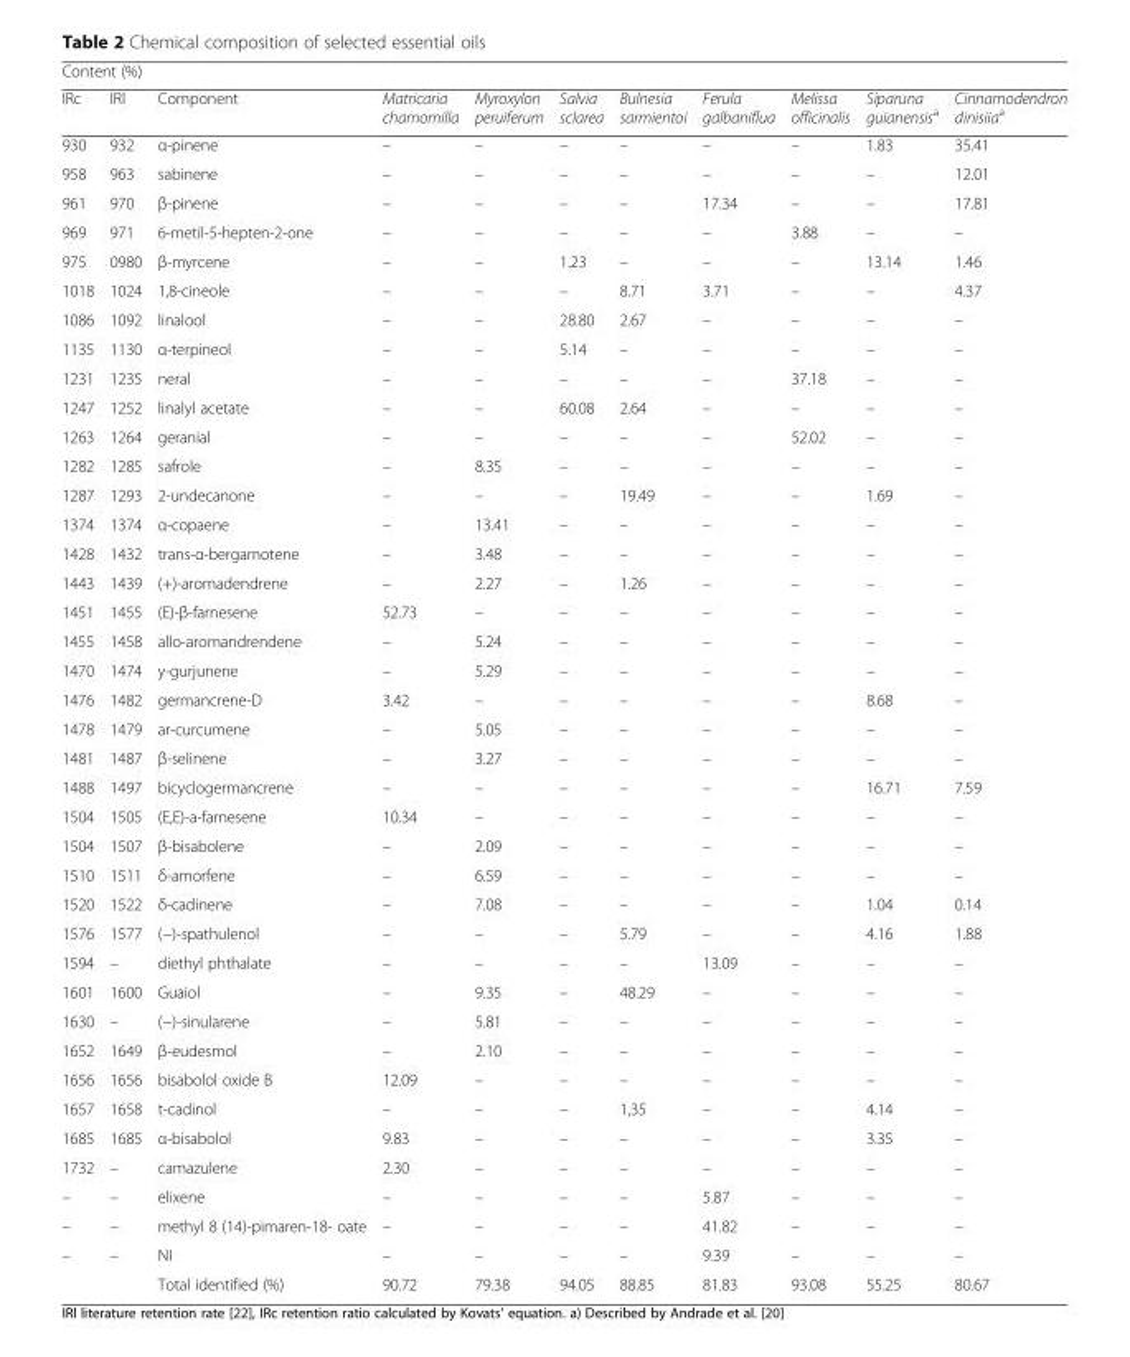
<table><thead><tr><td colspan="11">Content (%)</td></tr><tr><td>IRc</td><td>IRl</td><td>Component</td><td>Matricaria chamomilla</td><td>Myroxylon peruiferum</td><td>Salvia sclarea</td><td>Bulnesia sarmientoi</td><td>Ferula galbaniflua</td><td>Melissa officinalis</td><td>Siparuna guianensis<sup>a</sup></td><td>Cinnamodendron dinisiia<sup>a</sup></td></tr></thead><tbody><tr><td>930</td><td>932</td><td>α-pinene</td><td>–</td><td>–</td><td>–</td><td>–</td><td>–</td><td>–</td><td>1.83</td><td>35.41</td></tr><tr><td>958</td><td>963</td><td>sabinene</td><td>–</td><td>–</td><td>–</td><td>–</td><td>–</td><td>–</td><td>–</td><td>12.01</td></tr><tr><td>961</td><td>970</td><td>β-pinene</td><td>–</td><td>–</td><td>–</td><td>–</td><td>17.34</td><td>–</td><td>–</td><td>17.81</td></tr><tr><td>969</td><td>971</td><td>6-metil-5-hepten-2-one</td><td>–</td><td>–</td><td>–</td><td>–</td><td>–</td><td>3.88</td><td>–</td><td>–</td></tr><tr><td>975</td><td>0980</td><td>β-myrcene</td><td>–</td><td>–</td><td>1.23</td><td>–</td><td>–</td><td>–</td><td>13.14</td><td>1.46</td></tr><tr><td>1018</td><td>1024</td><td>1,8-cineole</td><td>–</td><td>–</td><td>–</td><td>8.71</td><td>3.71</td><td>–</td><td>–</td><td>4.37</td></tr><tr><td>1086</td><td>1092</td><td>linalool</td><td>–</td><td>–</td><td>28.80</td><td>2.67</td><td>–</td><td>–</td><td>–</td><td>–</td></tr><tr><td>1135</td><td>1130</td><td>α-terpineol</td><td>–</td><td>–</td><td>5.14</td><td>–</td><td>–</td><td>–</td><td>–</td><td>–</td></tr><tr><td>1231</td><td>1235</td><td>neral</td><td>–</td><td>–</td><td>–</td><td>–</td><td>–</td><td>37.18</td><td>–</td><td>–</td></tr><tr><td>1247</td><td>1252</td><td>linalyl acetate</td><td>–</td><td>–</td><td>60.08</td><td>2.64</td><td>–</td><td>–</td><td>–</td><td>–</td></tr><tr><td>1263</td><td>1264</td><td>geranial</td><td>–</td><td>–</td><td>–</td><td>–</td><td>–</td><td>52.02</td><td>–</td><td>–</td></tr><tr><td>1282</td><td>1285</td><td>safrole</td><td>–</td><td>8.35</td><td>–</td><td>–</td><td>–</td><td>–</td><td>–</td><td>–</td></tr><tr><td>1287</td><td>1293</td><td>2-undecanone</td><td>–</td><td>–</td><td>–</td><td>19.49</td><td>–</td><td>–</td><td>1.69</td><td>–</td></tr><tr><td>1374</td><td>1374</td><td>α-copaene</td><td>–</td><td>13.41</td><td>–</td><td>–</td><td>–</td><td>–</td><td>–</td><td>–</td></tr><tr><td>1428</td><td>1432</td><td>trans-α-bergamotene</td><td>–</td><td>3.48</td><td>–</td><td>–</td><td>–</td><td>–</td><td>–</td><td>–</td></tr><tr><td>1443</td><td>1439</td><td>(+)-aromadendrene</td><td>–</td><td>2.27</td><td>–</td><td>1.26</td><td>–</td><td>–</td><td>–</td><td>–</td></tr><tr><td>1451</td><td>1455</td><td>(E)-β-farnesene</td><td>52.73</td><td>–</td><td>–</td><td>–</td><td>–</td><td>–</td><td>–</td><td>–</td></tr><tr><td>1455</td><td>1458</td><td>allo-aromandrendene</td><td>–</td><td>5.24</td><td>–</td><td>–</td><td>–</td><td>–</td><td>–</td><td>–</td></tr><tr><td>1470</td><td>1474</td><td>y-gurjunene</td><td>–</td><td>5.29</td><td>–</td><td>–</td><td>–</td><td>–</td><td>–</td><td>–</td></tr><tr><td>1476</td><td>1482</td><td>germancrene-D</td><td>3.42</td><td>–</td><td>–</td><td>–</td><td>–</td><td>–</td><td>8.68</td><td>–</td></tr><tr><td>1478</td><td>1479</td><td>ar-curcumene</td><td>–</td><td>5.05</td><td>–</td><td>–</td><td>–</td><td>–</td><td>–</td><td>–</td></tr><tr><td>1481</td><td>1487</td><td>β-selinene</td><td>–</td><td>3.27</td><td>–</td><td>–</td><td>–</td><td>–</td><td>–</td><td>–</td></tr><tr><td>1488</td><td>1497</td><td>bicyclogermancrene</td><td>–</td><td>–</td><td>–</td><td>–</td><td>–</td><td>–</td><td>16.71</td><td>7.59</td></tr><tr><td>1504</td><td>1505</td><td>(E,E)-a-farnesene</td><td>10.34</td><td>–</td><td>–</td><td>–</td><td>–</td><td>–</td><td>–</td><td>–</td></tr><tr><td>1504</td><td>1507</td><td>β-bisabolene</td><td>–</td><td>2.09</td><td>–</td><td>–</td><td>–</td><td>–</td><td>–</td><td>–</td></tr><tr><td>1510</td><td>1511</td><td>δ-amorfene</td><td>–</td><td>6.59</td><td>–</td><td>–</td><td>–</td><td>–</td><td>–</td><td>–</td></tr><tr><td>1520</td><td>1522</td><td>δ-cadinene</td><td>–</td><td>7.08</td><td>–</td><td>–</td><td>–</td><td>–</td><td>1.04</td><td>0.14</td></tr><tr><td>1576</td><td>1577</td><td>(−)-spathulenol</td><td>–</td><td>–</td><td>–</td><td>5.79</td><td>–</td><td>–</td><td>4.16</td><td>1.88</td></tr><tr><td>1594</td><td>–</td><td>diethyl phthalate</td><td>–</td><td>–</td><td>–</td><td>–</td><td>13.09</td><td>–</td><td>–</td><td>–</td></tr><tr><td>1601</td><td>1600</td><td>Guaiol</td><td>–</td><td>9.35</td><td>–</td><td>48.29</td><td>–</td><td>–</td><td>–</td><td>–</td></tr><tr><td>1630</td><td>–</td><td>(−)-sinularene</td><td>–</td><td>5.81</td><td>–</td><td>–</td><td>–</td><td>–</td><td>–</td><td>–</td></tr><tr><td>1652</td><td>1649</td><td>β-eudesmol</td><td>–</td><td>2.10</td><td>–</td><td>–</td><td>–</td><td>–</td><td>–</td><td>–</td></tr><tr><td>1656</td><td>1656</td><td>bisabolol oxide B</td><td>12.09</td><td>–</td><td>–</td><td>–</td><td>–</td><td>–</td><td>–</td><td>–</td></tr><tr><td>1657</td><td>1658</td><td>t-cadinol</td><td>–</td><td>–</td><td>–</td><td>1,35</td><td>–</td><td>–</td><td>4.14</td><td>–</td></tr><tr><td>1685</td><td>1685</td><td>α-bisabolol</td><td>9.83</td><td>–</td><td>–</td><td>–</td><td>–</td><td>–</td><td>3.35</td><td>–</td></tr><tr><td>1732</td><td>–</td><td>camazulene</td><td>2.30</td><td>–</td><td>–</td><td>–</td><td>–</td><td>–</td><td>–</td><td>–</td></tr><tr><td>–</td><td>–</td><td>elixene</td><td>–</td><td>–</td><td>–</td><td>–</td><td>5.87</td><td>–</td><td>–</td><td>–</td></tr><tr><td>–</td><td>–</td><td>methyl 8 (14)-pimaren-18- oate</td><td>–</td><td>–</td><td>–</td><td>–</td><td>41.82</td><td>–</td><td>–</td><td>–</td></tr><tr><td rowspan="2">–</td><td>–</td><td>NI</td><td>–</td><td>–</td><td>–</td><td>–</td><td>9.39</td><td>–</td><td>–</td><td>–</td></tr><tr><td></td><td>Total identified (%)</td><td>90.72</td><td>79.38</td><td>94.05</td><td>88.85</td><td>81.83</td><td>93.08</td><td>55.25</td><td>80.67</td></tr></tbody></table>